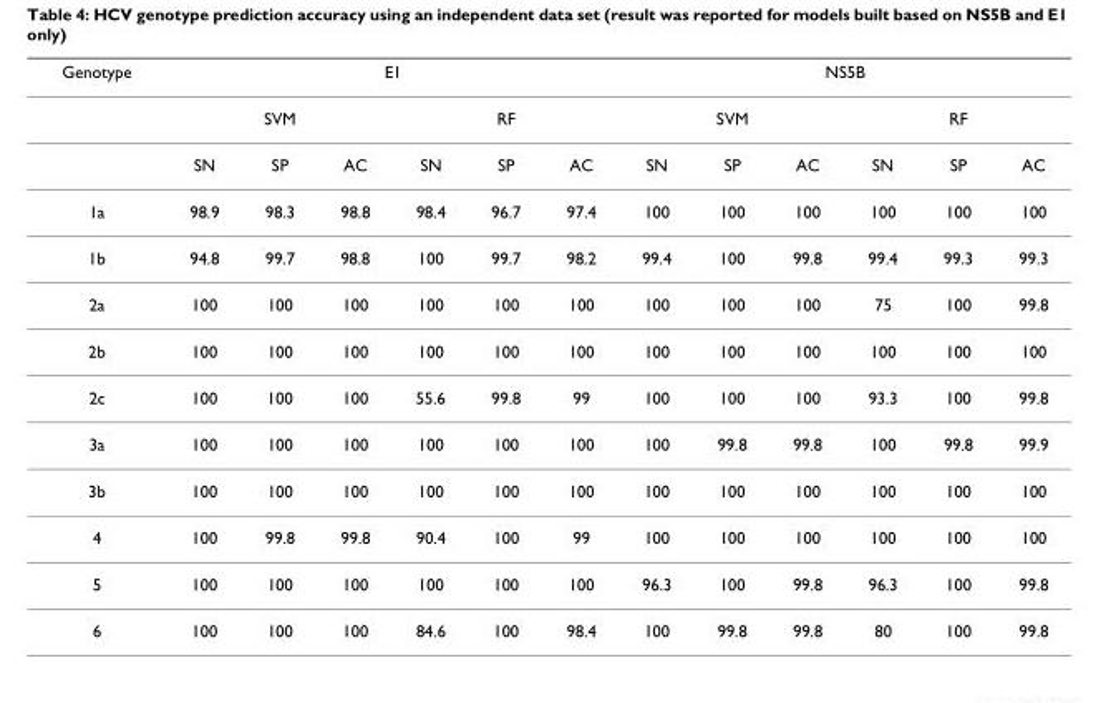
<table><thead><tr><td rowspan="3">Genotype</td><td colspan="6">E1</td><td colspan="6">NS5B</td></tr><tr><td colspan="3">SVM</td><td colspan="3">RF</td><td colspan="3">SVM</td><td colspan="3">RF</td></tr><tr><td>SN</td><td>SP</td><td>AC</td><td>SN</td><td>SP</td><td>AC</td><td>SN</td><td>SP</td><td>AC</td><td>SN</td><td>SP</td><td>AC</td></tr></thead><tbody><tr><td>1a</td><td>98.9</td><td>98.3</td><td>98.8</td><td>98.4</td><td>96.7</td><td>97.4</td><td>100</td><td>100</td><td>100</td><td>100</td><td>100</td><td>100</td></tr><tr><td>1b</td><td>94.8</td><td>99.7</td><td>98.8</td><td>100</td><td>99.7</td><td>98.2</td><td>99.4</td><td>100</td><td>99.8</td><td>99.4</td><td>99.3</td><td>99.3</td></tr><tr><td>2a</td><td>100</td><td>100</td><td>100</td><td>100</td><td>100</td><td>100</td><td>100</td><td>100</td><td>100</td><td>75</td><td>100</td><td>99.8</td></tr><tr><td>2b</td><td>100</td><td>100</td><td>100</td><td>100</td><td>100</td><td>100</td><td>100</td><td>100</td><td>100</td><td>100</td><td>100</td><td>100</td></tr><tr><td>2c</td><td>100</td><td>100</td><td>100</td><td>55.6</td><td>99.8</td><td>99</td><td>100</td><td>100</td><td>100</td><td>93.3</td><td>100</td><td>99.8</td></tr><tr><td>3a</td><td>100</td><td>100</td><td>100</td><td>100</td><td>100</td><td>100</td><td>100</td><td>99.8</td><td>99.8</td><td>100</td><td>99.8</td><td>99.9</td></tr><tr><td>3b</td><td>100</td><td>100</td><td>100</td><td>100</td><td>100</td><td>100</td><td>100</td><td>100</td><td>100</td><td>100</td><td>100</td><td>100</td></tr><tr><td>4</td><td>100</td><td>99.8</td><td>99.8</td><td>90.4</td><td>100</td><td>99</td><td>100</td><td>100</td><td>100</td><td>100</td><td>100</td><td>100</td></tr><tr><td>5</td><td>100</td><td>100</td><td>100</td><td>100</td><td>100</td><td>100</td><td>96.3</td><td>100</td><td>99.8</td><td>96.3</td><td>100</td><td>99.8</td></tr><tr><td>6</td><td>100</td><td>100</td><td>100</td><td>84.6</td><td>100</td><td>98.4</td><td>100</td><td>99.8</td><td>99.8</td><td>80</td><td>100</td><td>99.8</td></tr></tbody></table>